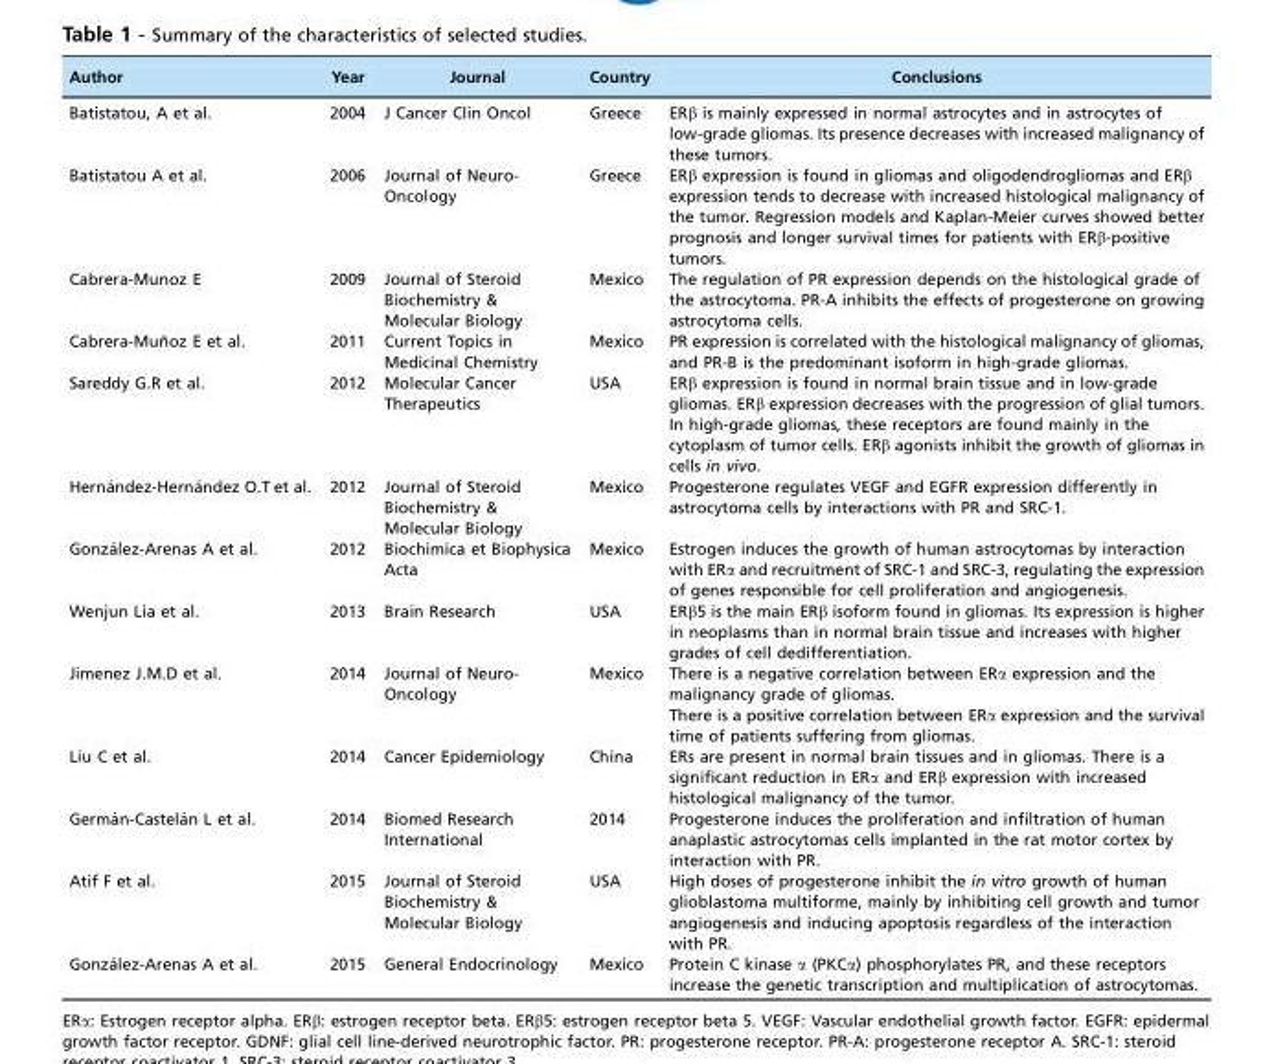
<table><thead><tr><td>Author</td><td>Year</td><td>Journal</td><td>Country</td><td>Conclusions</td></tr></thead><tbody><tr><td>Batistatou, A et al.</td><td>2004</td><td>J Cancer Clin Oncol</td><td>Greece</td><td>ERβ is mainly expressed in normal astrocytes and in astrocytes of low-grade gliomas. Its presence decreases with increased malignancy of these tumors.</td></tr><tr><td>Batistatou A et al.</td><td>2006</td><td>Journal of Neuro- Oncology</td><td>Greece</td><td>ERβ expression is found in gliomas and oligodendrogliomas and ERβ expression tends to decrease with increased histological malignancy of the tumor. Regression models and Kaplan-Meier curves showed better prognosis and longer survival times for patients with ERβ-positive tumors.</td></tr><tr><td>Cabrera-Munoz E</td><td>2009</td><td>Journal of Steroid Biochemistry &amp; Molecular Biology</td><td>Mexico</td><td>The regulation of PR expression depends on the histological grade of the astrocytoma. PR-A inhibits the effects of progesterone on growing astrocytoma cells.</td></tr><tr><td>Cabrera-Mun˜ oz E et al.</td><td>2011</td><td>Current Topics in Medicinal Chemistry</td><td>Mexico</td><td>PR expression is correlated with the histological malignancy of gliomas, and PR-B is the predominant isoform in high-grade gliomas.</td></tr><tr><td>Sareddy G.R et al.</td><td>2012</td><td>Molecular Cancer Therapeutics</td><td>USA</td><td>ERβ expression is found in normal brain tissue and in low-grade gliomas. ERβ expression decreases with the progression of glial tumors. In high-grade gliomas, these receptors are found mainly in the cytoplasm of tumor cells. ERβ agonists inhibit the growth of gliomas in cells in vivo.</td></tr><tr><td>Herna´ndez-Herna´ndez O.T et al.</td><td>2012</td><td>Journal of Steroid Biochemistry &amp; Molecular Biology</td><td>Mexico</td><td>Progesterone regulates VEGF and EGFR expression differently in astrocytoma cells by interactions with PR and SRC-1.</td></tr><tr><td>Gonza´lez-Arenas A et al.</td><td>2012</td><td>Biochimica et Biophysica Acta</td><td>Mexico</td><td>Estrogen induces the growth of human astrocytomas by interaction with ERα and recruitment of SRC-1 and SRC-3, regulating the expression of genes responsible for cell proliferation and angiogenesis.</td></tr><tr><td>Wenjun Lia et al.</td><td>2013</td><td>Brain Research</td><td>USA</td><td>ERβ5 is the main ERβ isoform found in gliomas. Its expression is higher in neoplasms than in normal brain tissue and increases with higher grades of cell dedifferentiation.</td></tr><tr><td>Jimenez J.M.D et al.</td><td>2014</td><td>Journal of Neuro- Oncology</td><td>Mexico</td><td>There is a negative correlation between ERα expression and the malignancy grade of gliomas. There is a positive correlation between ERα expression and the survival time of patients suffering from gliomas.</td></tr><tr><td>Liu C et al.</td><td>2014</td><td>Cancer Epidemiology</td><td>China</td><td>ERs are present in normal brain tissues and in gliomas. There is a significant reduction in ERα and ERβ expression with increased histological malignancy of the tumor.</td></tr><tr><td>Germa´n-Castela´n L et al.</td><td>2014</td><td>Biomed Research International</td><td>2014</td><td>Progesterone induces the proliferation and infiltration of human anaplastic astrocytomas cells implanted in the rat motor cortex by interaction with PR.</td></tr><tr><td>Atif F et al.</td><td>2015</td><td>Journal of Steroid Biochemistry &amp; Molecular Biology</td><td>USA</td><td>High doses of progesterone inhibit the in vitro growth of human glioblastoma multiforme, mainly by inhibiting cell growth and tumor angiogenesis and inducing apoptosis regardless of the interaction with PR.</td></tr><tr><td>Gonza´lez-Arenas A et al.</td><td>2015</td><td>General Endocrinology</td><td>Mexico</td><td>Protein C kinase α (PKCα) phosphorylates PR, and these receptors increase the genetic transcription and multiplication of astrocytomas.</td></tr></tbody></table>